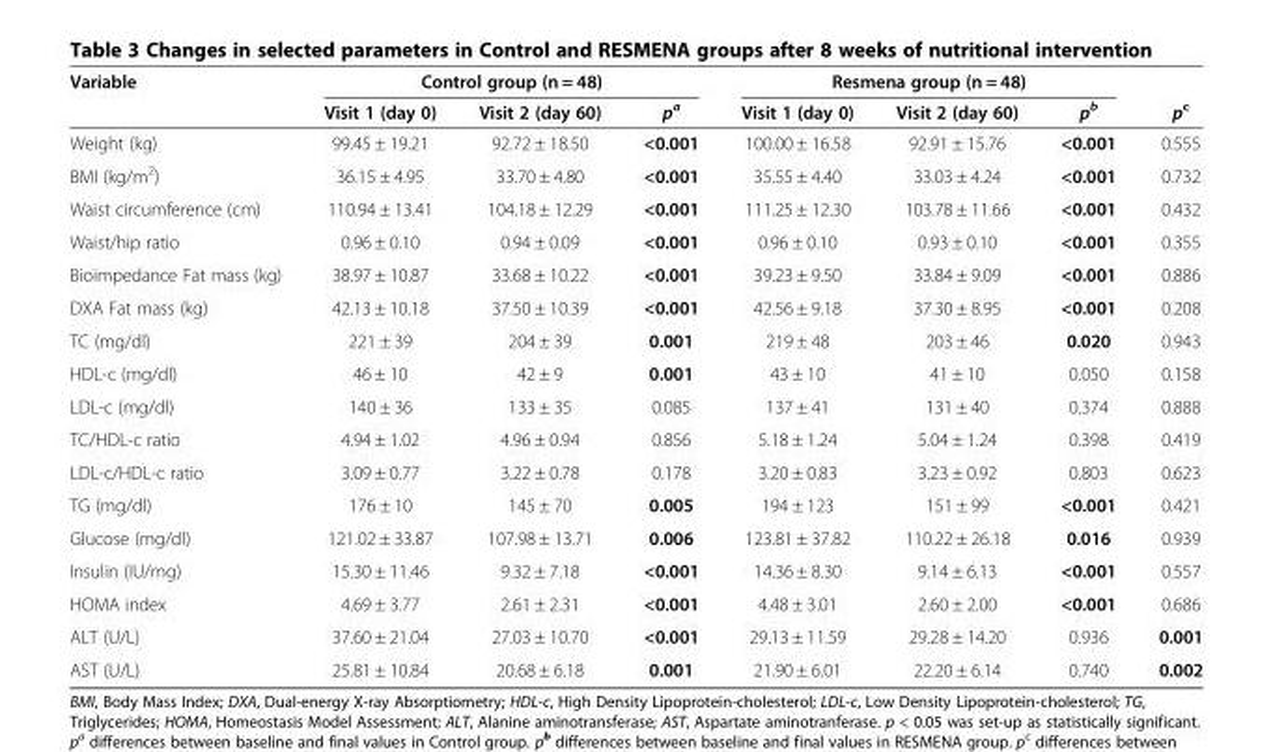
<table><thead><tr><td rowspan="2">Variable</td><td colspan="3">Control group (n = 48)</td><td colspan="3">Resmena group (n = 48)</td><td rowspan="2">p<sup>c</sup></td></tr><tr><td>Visit 1 (day 0)</td><td>Visit 2 (day 60)</td><td>p<sup>a</sup></td><td>Visit 1 (day 0)</td><td>Visit 2 (day 60)</td><td>p<sup>b</sup></td></tr></thead><tbody><tr><td>Weight (kg)</td><td>99.45 ± 19.21</td><td>92.72 ± 18.50</td><td>&lt;0.001</td><td>100.00 ± 16.58</td><td>92.91 ± 15.76</td><td>&lt;0.001</td><td>0.555</td></tr><tr><td>BMI (kg/m<sup>2</sup>)</td><td>36.15 ± 4.95</td><td>33.70 ± 4.80</td><td>&lt;0.001</td><td>35.55 ± 4.40</td><td>33.03 ± 4.24</td><td>&lt;0.001</td><td>0.732</td></tr><tr><td>Waist circumference (cm)</td><td>110.94 ± 13.41</td><td>104.18 ± 12.29</td><td>&lt;0.001</td><td>111.25 ± 12.30</td><td>103.78 ± 11.66</td><td>&lt;0.001</td><td>0.432</td></tr><tr><td>Waist/hip ratio</td><td>0.96 ± 0.10</td><td>0.94 ± 0.09</td><td>&lt;0.001</td><td>0.96 ± 0.10</td><td>0.93 ± 0.10</td><td>&lt;0.001</td><td>0.355</td></tr><tr><td>Bioimpedance Fat mass (kg)</td><td>38.97 ± 10.87</td><td>33.68 ± 10.22</td><td>&lt;0.001</td><td>39.23 ± 9.50</td><td>33.84 ± 9.09</td><td>&lt;0.001</td><td>0.886</td></tr><tr><td>DXA Fat mass (kg)</td><td>42.13 ± 10.18</td><td>37.50 ± 10.39</td><td>&lt;0.001</td><td>42.56 ± 9.18</td><td>37.30 ± 8.95</td><td>&lt;0.001</td><td>0.208</td></tr><tr><td>TC (mg/dl)</td><td>221 ± 39</td><td>204 ± 39</td><td>0.001</td><td>219 ± 48</td><td>203 ± 46</td><td>0.020</td><td>0.943</td></tr><tr><td>HDL-c (mg/dl)</td><td>46 ± 10</td><td>42 ± 9</td><td>0.001</td><td>43 ± 10</td><td>41 ± 10</td><td>0.050</td><td>0.158</td></tr><tr><td>LDL-c (mg/dl)</td><td>140 ± 36</td><td>133 ± 35</td><td>0.085</td><td>137 ± 41</td><td>131 ± 40</td><td>0.374</td><td>0.888</td></tr><tr><td>TC/HDL-c ratio</td><td>4.94 ± 1.02</td><td>4.96 ± 0.94</td><td>0.856</td><td>5.18 ± 1.24</td><td>5.04 ± 1.24</td><td>0.398</td><td>0.419</td></tr><tr><td>LDL-c/HDL-c ratio</td><td>3.09 ± 0.77</td><td>3.22 ± 0.78</td><td>0.178</td><td>3.20 ± 0.83</td><td>3.23 ± 0.92</td><td>0.803</td><td>0.623</td></tr><tr><td>TG (mg/dl)</td><td>176 ± 10</td><td>145 ± 70</td><td>0.005</td><td>194 ± 123</td><td>151 ± 99</td><td>&lt;0.001</td><td>0.421</td></tr><tr><td>Glucose (mg/dl)</td><td>121.02 ± 33.87</td><td>107.98 ± 13.71</td><td>0.006</td><td>123.81 ± 37.82</td><td>110.22 ± 26.18</td><td>0.016</td><td>0.939</td></tr><tr><td>Insulin (IU/mg)</td><td>15.30 ± 11.46</td><td>9.32 ± 7.18</td><td>&lt;0.001</td><td>14.36 ± 8.30</td><td>9.14 ± 6.13</td><td>&lt;0.001</td><td>0.557</td></tr><tr><td>HOMA index</td><td>4.69 ± 3.77</td><td>2.61 ± 2.31</td><td>&lt;0.001</td><td>4.48 ± 3.01</td><td>2.60 ± 2.00</td><td>&lt;0.001</td><td>0.686</td></tr><tr><td>ALT (U/L)</td><td>37.60 ± 21.04</td><td>27.03 ± 10.70</td><td>&lt;0.001</td><td>29.13 ± 11.59</td><td>29.28 ± 14.20</td><td>0.936</td><td>0.001</td></tr><tr><td>AST (U/L)</td><td>25.81 ± 10.84</td><td>20.68 ± 6.18</td><td>0.001</td><td>21.90 ± 6.01</td><td>22.20 ± 6.14</td><td>0.740</td><td>0.002</td></tr></tbody></table>